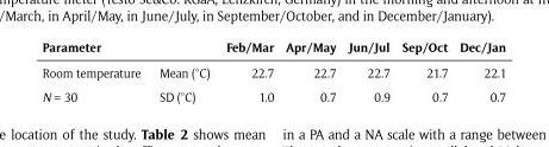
<table><thead><tr><td>Parameter</td><td></td><td>Feb/Mar</td><td>Apr/May</td><td>Jun/Jul</td><td>Sep/Oct</td><td>Dec/Jan</td></tr></thead><tbody><tr><td>Room temperature</td><td>Mean (°C)</td><td>22.7</td><td>22.7</td><td>22.7</td><td>21.7</td><td>22.1</td></tr><tr><td>N = 30</td><td>SD (°C)</td><td>1.0</td><td>0.7</td><td>0.9</td><td>0.7</td><td>0.7</td></tr></tbody></table>